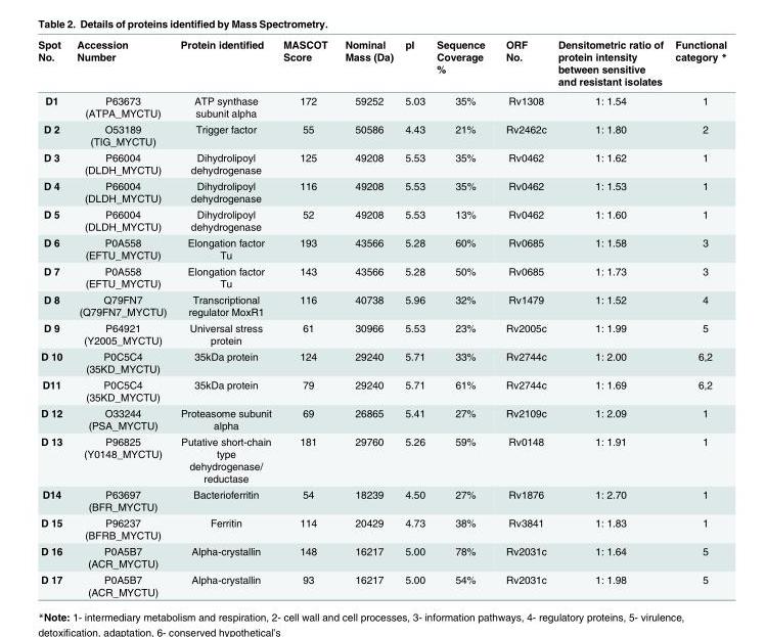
<table><thead><tr><td>Spot No.</td><td>Accession Number</td><td>Protein identified</td><td>MASCOT Score</td><td>Nominal Mass (Da)</td><td>pI</td><td>Sequence Coverage %</td><td>ORF No.</td><td>Densitometric ratio of protein intensity between sensitive and resistant isolates</td><td>Functional category *</td></tr></thead><tbody><tr><td>D1</td><td>P63673 (ATPA_MYCTU)</td><td>ATP synthase subunit alpha</td><td>172</td><td>59252</td><td>5.03</td><td>35%</td><td>Rv1308</td><td>1: 1.54</td><td>1</td></tr><tr><td>D 2</td><td>O53189 (TIG_MYCTU)</td><td>Trigger factor</td><td>55</td><td>50586</td><td>4.43</td><td>21%</td><td>Rv2462c</td><td>1: 1.80</td><td>2</td></tr><tr><td>D 3</td><td>P66004 (DLDH_MYCTU)</td><td>Dihydrolipoyl dehydrogenase</td><td>125</td><td>49208</td><td>5.53</td><td>35%</td><td>Rv0462</td><td>1: 1.62</td><td>1</td></tr><tr><td>D 4</td><td>P66004 (DLDH_MYCTU)</td><td>Dihydrolipoyl dehydrogenase</td><td>116</td><td>49208</td><td>5.53</td><td>35%</td><td>Rv0462</td><td>1: 1.53</td><td>1</td></tr><tr><td>D 5</td><td>P66004 (DLDH_MYCTU)</td><td>Dihydrolipoyl dehydrogenase</td><td>52</td><td>49208</td><td>5.53</td><td>13%</td><td>Rv0462</td><td>1: 1.60</td><td>1</td></tr><tr><td>D 6</td><td>P0A558 (EFTU_MYCTU)</td><td>Elongation factor Tu</td><td>193</td><td>43566</td><td>5.28</td><td>60%</td><td>Rv0685</td><td>1: 1.58</td><td>3</td></tr><tr><td>D 7</td><td>P0A558 (EFTU_MYCTU)</td><td>Elongation factor Tu</td><td>143</td><td>43566</td><td>5.28</td><td>50%</td><td>Rv0685</td><td>1: 1.73</td><td>3</td></tr><tr><td>D 8</td><td>Q79FN7 (Q79FN7_MYCTU)</td><td>Transcriptional regulator MoxR1</td><td>116</td><td>40738</td><td>5.96</td><td>32%</td><td>Rv1479</td><td>1: 1.52</td><td>4</td></tr><tr><td>D 9</td><td>P64921 (Y2005_MYCTU)</td><td>Universal stress protein</td><td>61</td><td>30966</td><td>5.53</td><td>23%</td><td>Rv2005c</td><td>1: 1.99</td><td>5</td></tr><tr><td>D 10</td><td>P0C5C4 (35KD_MYCTU)</td><td>35kDa protein</td><td>124</td><td>29240</td><td>5.71</td><td>33%</td><td>Rv2744c</td><td>1: 2.00</td><td>6,2</td></tr><tr><td>D11</td><td>P0C5C4 (35KD_MYCTU)</td><td>35kDa protein</td><td>79</td><td>29240</td><td>5.71</td><td>61%</td><td>Rv2744c</td><td>1: 1.69</td><td>6,2</td></tr><tr><td>D 12</td><td>O33244 (PSA_MYCTU)</td><td>Proteasome subunit alpha</td><td>69</td><td>26865</td><td>5.41</td><td>27%</td><td>Rv2109c</td><td>1: 2.09</td><td>1</td></tr><tr><td>D 13</td><td>P96825 (Y0148_MYCTU)</td><td>Putative short-chain type dehydrogenase/ reductase</td><td>181</td><td>29760</td><td>5.26</td><td>59%</td><td>Rv0148</td><td>1: 1.91</td><td>1</td></tr><tr><td>D14</td><td>P63697 (BFR_MYCTU)</td><td>Bacterioferritin</td><td>54</td><td>18239</td><td>4.50</td><td>27%</td><td>Rv1876</td><td>1: 2.70</td><td>1</td></tr><tr><td>D 15</td><td>P96237 (BFRB_MYCTU)</td><td>Ferritin</td><td>114</td><td>20429</td><td>4.73</td><td>38%</td><td>Rv3841</td><td>1: 1.83</td><td>1</td></tr><tr><td>D 16</td><td>P0A5B7 (ACR_MYCTU)</td><td>Alpha-crystallin</td><td>148</td><td>16217</td><td>5.00</td><td>78%</td><td>Rv2031c</td><td>1: 1.64</td><td>5</td></tr><tr><td>D 17</td><td>P0A5B7 (ACR_MYCTU)</td><td>Alpha-crystallin</td><td>93</td><td>16217</td><td>5.00</td><td>54%</td><td>Rv2031c</td><td>1: 1.98</td><td>5</td></tr></tbody></table>